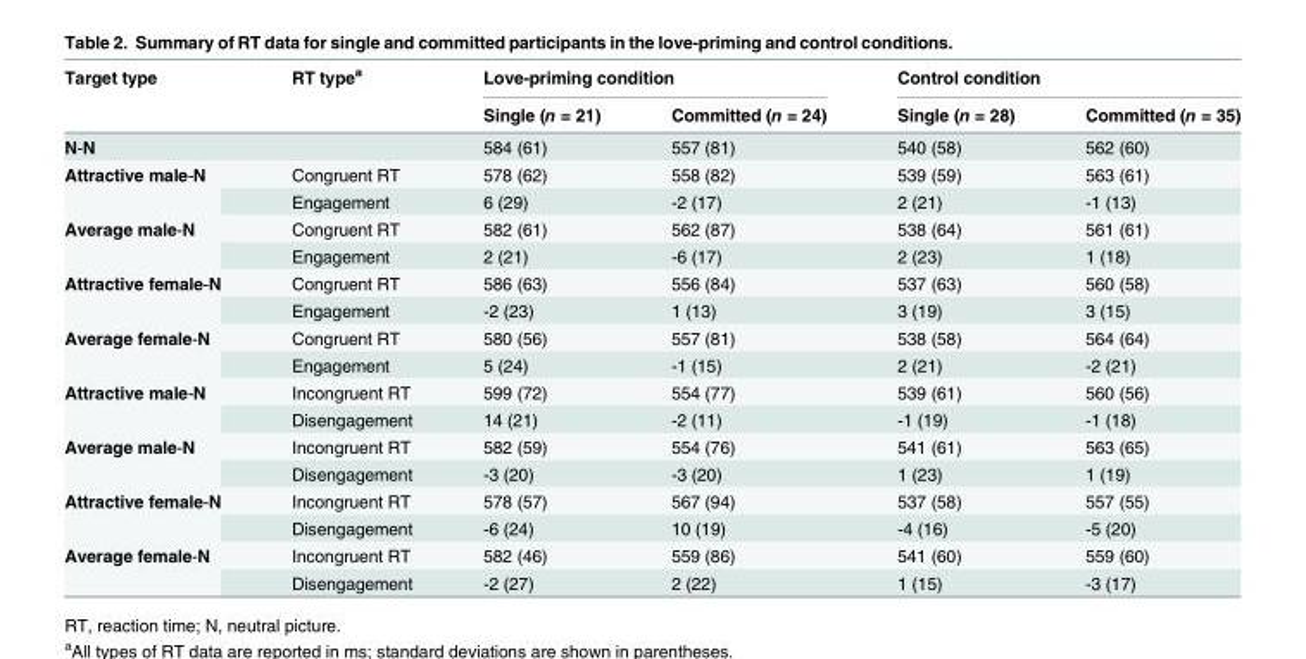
<table><thead><tr><td rowspan="2">Target type</td><td rowspan="2">RT type<sup>a</sup></td><td colspan="2">Love-priming condition</td><td colspan="2">Control condition</td></tr><tr><td>Single (n = 21)</td><td>Committed (n = 24)</td><td>Single (n = 28)</td><td>Committed (n = 35)</td></tr></thead><tbody><tr><td>N-N</td><td></td><td>584 (61)</td><td>557 (81)</td><td>540 (58)</td><td>562 (60)</td></tr><tr><td rowspan="2">Attractive male-N</td><td>Congruent RT</td><td>578 (62)</td><td>558 (82)</td><td>539 (59)</td><td>563 (61)</td></tr><tr><td>Engagement</td><td>6 (29)</td><td>-2 (17)</td><td>2 (21)</td><td>-1 (13)</td></tr><tr><td rowspan="2">Average male-N</td><td>Congruent RT</td><td>582 (61)</td><td>562 (87)</td><td>538 (64)</td><td>561 (61)</td></tr><tr><td>Engagement</td><td>2 (21)</td><td>-6 (17)</td><td>2 (23)</td><td>1 (18)</td></tr><tr><td rowspan="2">Attractive female-N</td><td>Congruent RT</td><td>586 (63)</td><td>556 (84)</td><td>537 (63)</td><td>560 (58)</td></tr><tr><td>Engagement</td><td>-2 (23)</td><td>1 (13)</td><td>3 (19)</td><td>3 (15)</td></tr><tr><td rowspan="2">Average female-N</td><td>Congruent RT</td><td>580 (56)</td><td>557 (81)</td><td>538 (58)</td><td>564 (64)</td></tr><tr><td>Engagement</td><td>5 (24)</td><td>-1 (15)</td><td>2 (21)</td><td>-2 (21)</td></tr><tr><td rowspan="2">Attractive male-N</td><td>Incongruent RT</td><td>599 (72)</td><td>554 (77)</td><td>539 (61)</td><td>560 (56)</td></tr><tr><td>Disengagement</td><td>14 (21)</td><td>-2 (11)</td><td>-1 (19)</td><td>-1 (18)</td></tr><tr><td rowspan="2">Average male-N</td><td>Incongruent RT</td><td>582 (59)</td><td>554 (76)</td><td>541 (61)</td><td>563 (65)</td></tr><tr><td>Disengagement</td><td>-3 (20)</td><td>-3 (20)</td><td>1 (23)</td><td>1 (19)</td></tr><tr><td rowspan="2">Attractive female-N</td><td>Incongruent RT</td><td>578 (57)</td><td>567 (94)</td><td>537 (58)</td><td>557 (55)</td></tr><tr><td>Disengagement</td><td>-6 (24)</td><td>10 (19)</td><td>-4 (16)</td><td>-5 (20)</td></tr><tr><td rowspan="2">Average female-N</td><td>Incongruent RT</td><td>582 (46)</td><td>559 (86)</td><td>541 (60)</td><td>559 (60)</td></tr><tr><td>Disengagement</td><td>-2 (27)</td><td>2 (22)</td><td>1 (15)</td><td>-3 (17)</td></tr></tbody></table>